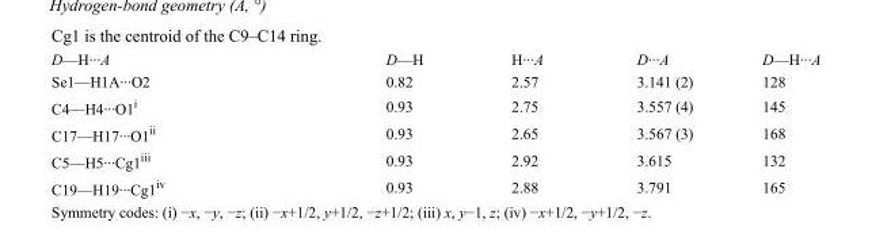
<table><tbody><tr><td>D—H···A</td><td>D—H</td><td>H···A</td><td>D···A</td><td>D—H···A</td></tr><tr><td>Se1—H1A···O2</td><td>0.82</td><td>2.57</td><td>3.141 (2)</td><td>128</td></tr><tr><td>C4—H4···O1<sup>i</sup></td><td>0.93</td><td>2.75</td><td>3.557 (4)</td><td>145</td></tr><tr><td>C17—H17···O1<sup>ii</sup></td><td>0.93</td><td>2.65</td><td>3.567 (3)</td><td>168</td></tr><tr><td>C5—H5···Cg1<sup>iii</sup></td><td>0.93</td><td>2.92</td><td>3.615</td><td>132</td></tr><tr><td>C19—H19···Cg1<sup>iv</sup></td><td>0.93</td><td>2.88</td><td>3.791</td><td>165</td></tr></tbody></table>